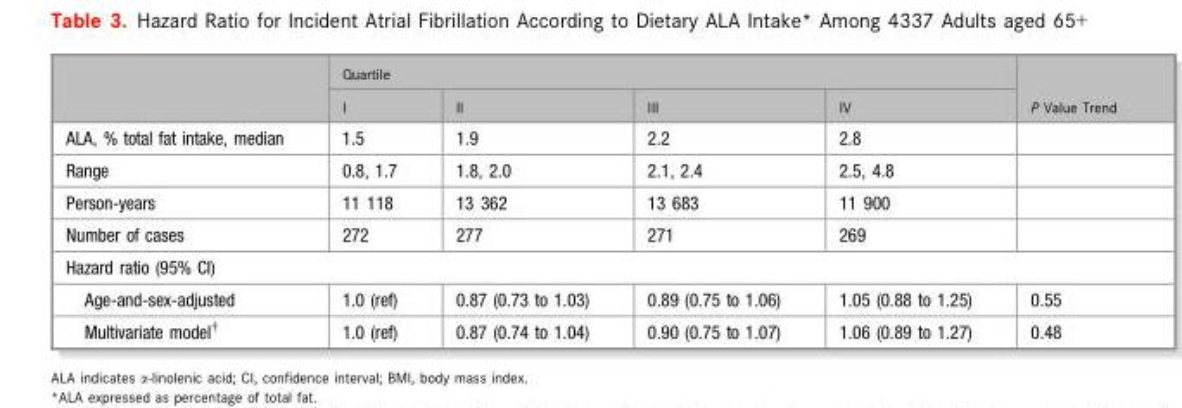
<table><thead><tr><td rowspan="2"></td><td colspan="4">Quartile</td><td rowspan="2">P Value Trend</td></tr><tr><td>I</td><td>II</td><td>III</td><td>IV</td></tr></thead><tbody><tr><td>ALA, % total fat intake, median</td><td>1.5</td><td>1.9</td><td>2.2</td><td>2.8</td><td></td></tr><tr><td>Range</td><td>0.8, 1.7</td><td>1.8, 2.0</td><td>2.1, 2.4</td><td>2.5, 4.8</td><td></td></tr><tr><td>Person-years</td><td>11 118</td><td>13 362</td><td>13 683</td><td>11 900</td><td></td></tr><tr><td>Number of cases</td><td>272</td><td>277</td><td>271</td><td>269</td><td></td></tr><tr><td colspan="6">Hazard ratio (95% CI)</td></tr><tr><td>Age-and-sex-adjusted</td><td>1.0 (ref)</td><td>0.87 (0.73 to 1.03)</td><td>0.89 (0.75 to 1.06)</td><td>1.05 (0.88 to 1.25)</td><td>0.55</td></tr><tr><td>Multivariate model†</td><td>1.0 (ref)</td><td>0.87 (0.74 to 1.04)</td><td>0.90 (0.75 to 1.07)</td><td>1.06 (0.89 to 1.27)</td><td>0.48</td></tr></tbody></table>